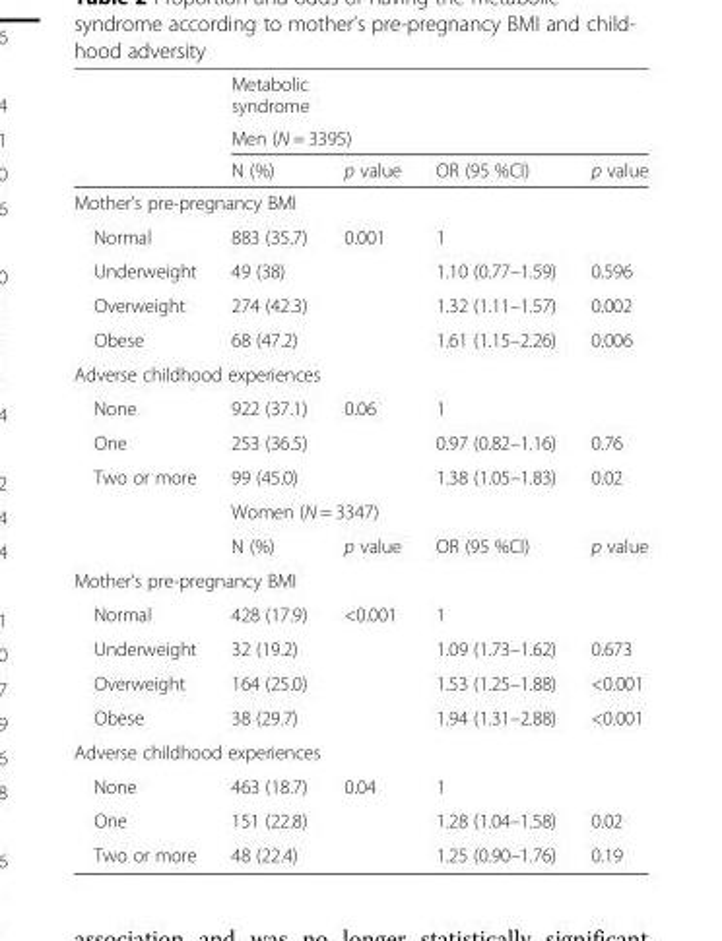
<table><thead><tr><td rowspan="3"></td><td>Metabolic syndrome</td><td></td><td></td><td></td></tr><tr><td colspan="4">Men (N = 3395)</td></tr><tr><td>N (%)</td><td>p value</td><td>OR (95 %CI)</td><td>p value</td></tr></thead><tbody><tr><td colspan="5">Mother’s pre-pregnancy BMI</td></tr><tr><td>Normal</td><td>883 (35.7)</td><td rowspan="4">0.001</td><td>1</td><td></td></tr><tr><td>Underweight</td><td>49 (38)</td><td>1.10 (0.77–1.59)</td><td>0.596</td></tr><tr><td>Overweight</td><td>274 (42.3)</td><td>1.32 (1.11–1.57)</td><td>0.002</td></tr><tr><td>Obese</td><td>68 (47.2)</td><td>1.61 (1.15–2.26)</td><td>0.006</td></tr><tr><td colspan="5">Adverse childhood experiences</td></tr><tr><td>None</td><td>922 (37.1)</td><td rowspan="3">0.06</td><td>1</td><td></td></tr><tr><td>One</td><td>253 (36.5)</td><td>0.97 (0.82–1.16)</td><td>0.76</td></tr><tr><td rowspan="3">Two or more</td><td>99 (45.0)</td><td>1.38 (1.05–1.83)</td><td>0.02</td></tr><tr><td colspan="4">Women (N = 3347)</td></tr><tr><td>N (%)</td><td>p value</td><td>OR (95 %CI)</td><td>p value</td></tr><tr><td colspan="5">Mother’s pre-pregnancy BMI</td></tr><tr><td>Normal</td><td>428 (17.9)</td><td rowspan="4">&lt;0.001</td><td>1</td><td></td></tr><tr><td>Underweight</td><td>32 (19.2)</td><td>1.09 (1.73–1.62)</td><td>0.673</td></tr><tr><td>Overweight</td><td>164 (25.0)</td><td>1.53 (1.25–1.88)</td><td>&lt;0.001</td></tr><tr><td>Obese</td><td>38 (29.7)</td><td>1.94 (1.31–2.88)</td><td>&lt;0.001</td></tr><tr><td colspan="5">Adverse childhood experiences</td></tr><tr><td>None</td><td>463 (18.7)</td><td rowspan="3">0.04</td><td>1</td><td></td></tr><tr><td>One</td><td>151 (22.8)</td><td>1.28 (1.04–1.58)</td><td>0.02</td></tr><tr><td>Two or more</td><td>48 (22.4)</td><td>1.25 (0.90–1.76)</td><td>0.19</td></tr></tbody></table>